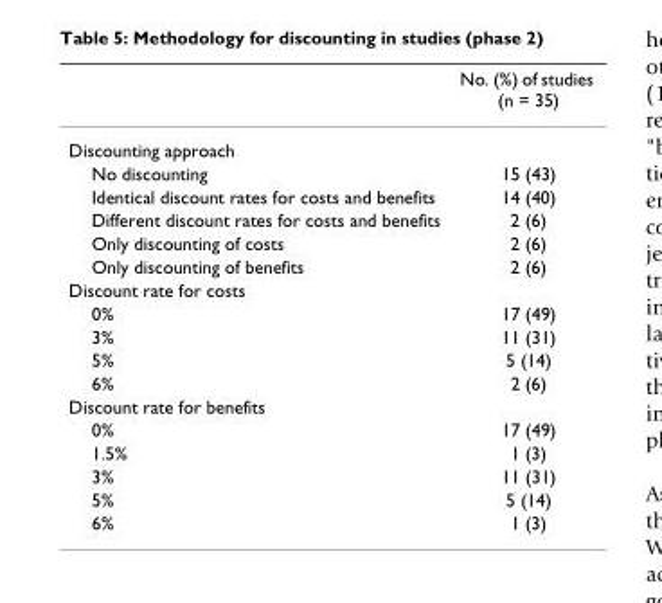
<table><thead><tr><td></td><td>No. (%) of studies (n = 35)</td></tr></thead><tbody><tr><td colspan="2">Discounting approach</td></tr><tr><td>No discounting</td><td>15 (43)</td></tr><tr><td>Identical discount rates for costs and benefits</td><td>14 (40)</td></tr><tr><td>Different discount rates for costs and benefits</td><td>2 (6)</td></tr><tr><td>Only discounting of costs</td><td>2 (6)</td></tr><tr><td>Only discounting of benefits</td><td>2 (6)</td></tr><tr><td colspan="2">Discount rate for costs</td></tr><tr><td>0%</td><td>17 (49)</td></tr><tr><td>3%</td><td>11 (31)</td></tr><tr><td>5%</td><td>5 (14)</td></tr><tr><td>6%</td><td>2 (6)</td></tr><tr><td colspan="2">Discount rate for benefits</td></tr><tr><td>0%</td><td>17 (49)</td></tr><tr><td>1.5%</td><td>1 (3)</td></tr><tr><td>3%</td><td>11 (31)</td></tr><tr><td>5%</td><td>5 (14)</td></tr><tr><td>6%</td><td>1 (3)</td></tr></tbody></table>